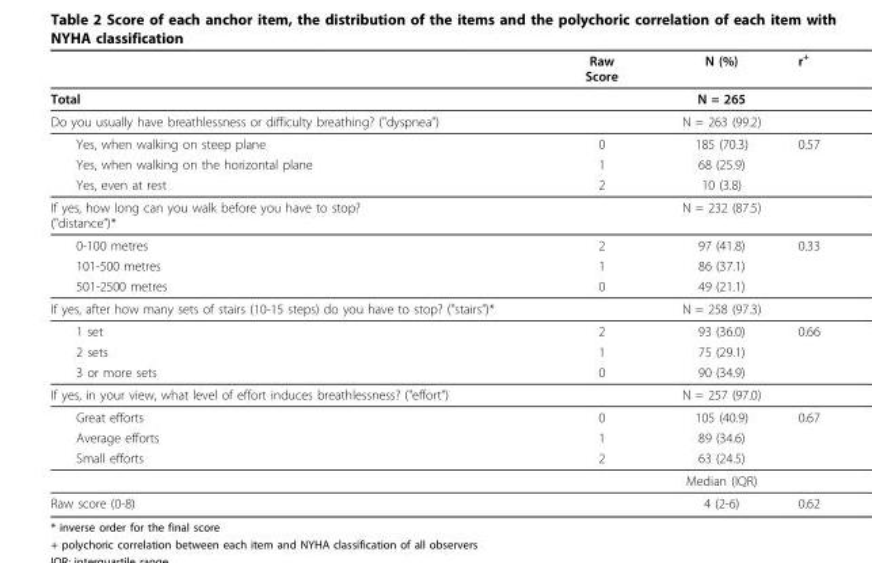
<table><thead><tr><td></td><td>Raw Score</td><td>N (%)</td><td>r+</td></tr></thead><tbody><tr><td>Total</td><td></td><td>N = 265</td><td></td></tr><tr><td>Do you usually have breathlessness or difficulty breathing? (&quot;dyspnea”)</td><td></td><td>N = 263 (99.2)</td><td></td></tr><tr><td>Yes, when walking on steep plane</td><td>0</td><td>185 (70.3)</td><td>0.57</td></tr><tr><td>Yes, when walking on the horizontal plane</td><td>1</td><td>68 (25.9)</td><td></td></tr><tr><td>Yes, even at rest</td><td>2</td><td>10 (3.8)</td><td></td></tr><tr><td>If yes, how long can you walk before you have to stop? (&quot;distance”)*</td><td></td><td>N = 232 (87.5)</td><td></td></tr><tr><td>0-100 metres</td><td>2</td><td>97 (41.8)</td><td>0.33</td></tr><tr><td>101-500 metres</td><td>1</td><td>86 (37.1)</td><td></td></tr><tr><td>501-2500 metres</td><td>0</td><td>49 (21.1)</td><td></td></tr><tr><td>If yes, after how many sets of stairs (10-15 steps) do you have to stop? (&quot;stairs”)*</td><td></td><td>N = 258 (97.3)</td><td></td></tr><tr><td>1 set</td><td>2</td><td>93 (36.0)</td><td>0.66</td></tr><tr><td>2 sets</td><td>1</td><td>75 (29.1)</td><td></td></tr><tr><td>3 or more sets</td><td>0</td><td>90 (34.9)</td><td></td></tr><tr><td>If yes, in your view, what level of effort induces breathlessness? (&quot;effort”)</td><td></td><td>N = 257 (97.0)</td><td></td></tr><tr><td>Great efforts</td><td>0</td><td>105 (40.9)</td><td>0.67</td></tr><tr><td>Average efforts</td><td>1</td><td>89 (34.6)</td><td></td></tr><tr><td rowspan="2">Small efforts</td><td>2</td><td>63 (24.5)</td><td></td></tr><tr><td></td><td>Median (IQR)</td><td></td></tr><tr><td>Raw score (0-8)</td><td></td><td>4 (2-6)</td><td>0.62</td></tr></tbody></table>